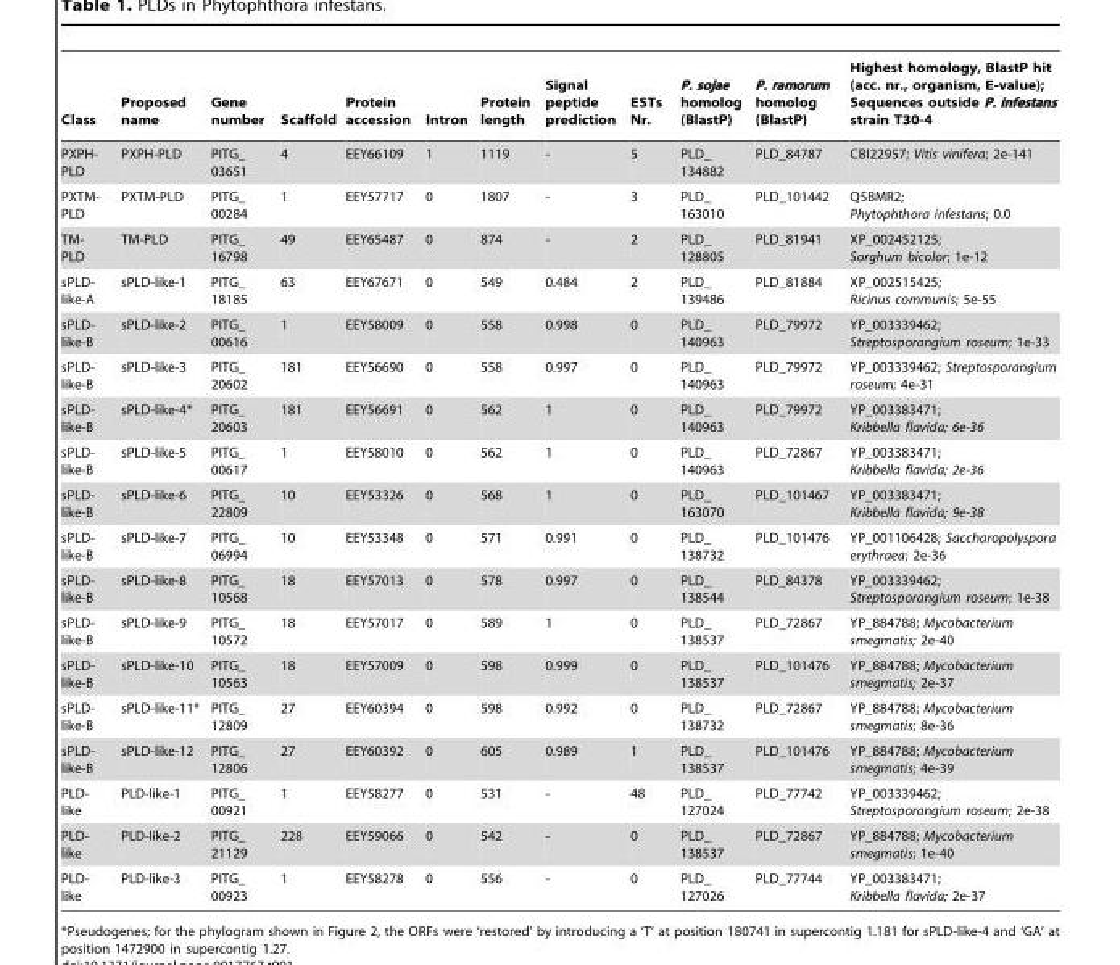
<table><thead><tr><td>Class</td><td>Proposed name</td><td>Gene number</td><td>Scaffold</td><td>Protein accession</td><td>Intron</td><td>Protein length</td><td>Signal peptide prediction</td><td>ESTs Nr.</td><td>P. sojae homolog (BlastP)</td><td>P. ramorum homolog (BlastP)</td><td>Highest homology, BlastP hit (acc. nr., organism, E-value); Sequences outside P. infestans strain T30-4</td></tr></thead><tbody><tr><td>PXPH- PLD</td><td>PXPH-PLD</td><td>PITG_ 03651</td><td>4</td><td>EEY66109</td><td>1</td><td>1119</td><td>-</td><td>5</td><td>PLD_ 134882</td><td>PLD_84787</td><td>CBI22957; Vitis vinifera; 2e-141</td></tr><tr><td>PXTM- PLD</td><td>PXTM-PLD</td><td>PITG_ 00284</td><td>1</td><td>EEY57717</td><td>0</td><td>1807</td><td>-</td><td>3</td><td>PLD_ 163010</td><td>PLD_101442</td><td>Q5BMR2; Phytophthora infestans; 0.0</td></tr><tr><td>TM- PLD</td><td>TM-PLD</td><td>PITG_ 16798</td><td>49</td><td>EEY65487</td><td>0</td><td>874</td><td>-</td><td>2</td><td>PLD_ 128805</td><td>PLD_81941</td><td>XP_002452125; Sorghum bicolor; 1e-12</td></tr><tr><td>sPLD- like-A</td><td>sPLD-like-1</td><td>PITG_ 18185</td><td>63</td><td>EEY67671</td><td>0</td><td>549</td><td>0.484</td><td>2</td><td>PLD_ 139486</td><td>PLD_81884</td><td>XP_002515425; Ricinus communis; 5e-55</td></tr><tr><td>sPLD- like-B</td><td>sPLD-like-2</td><td>PITG_ 00616</td><td>1</td><td>EEY58009</td><td>0</td><td>558</td><td>0.998</td><td>0</td><td>PLD_ 140963</td><td>PLD_79972</td><td>YP_003339462; Streptosporangium roseum; 1e-33</td></tr><tr><td>sPLD- like-B</td><td>sPLD-like-3</td><td>PITG_ 20602</td><td>181</td><td>EEY56690</td><td>0</td><td>558</td><td>0.997</td><td>0</td><td>PLD_ 140963</td><td>PLD_79972</td><td>YP_003339462; Streptosporangium roseum; 4e-31</td></tr><tr><td>sPLD- like-B</td><td>sPLD-like-4*</td><td>PITG_ 20603</td><td>181</td><td>EEY56691</td><td>0</td><td>562</td><td>1</td><td>0</td><td>PLD_ 140963</td><td>PLD_79972</td><td>YP_003383471; Kribbella flavida; 6e-36</td></tr><tr><td>sPLD- like-B</td><td>sPLD-like-5</td><td>PITG_ 00617</td><td>1</td><td>EEY58010</td><td>0</td><td>562</td><td>1</td><td>0</td><td>PLD_ 140963</td><td>PLD_72867</td><td>YP_003383471; Kribbella flavida; 2e-36</td></tr><tr><td>sPLD- like-B</td><td>sPLD-like-6</td><td>PITG_ 22809</td><td>10</td><td>EEY53326</td><td>0</td><td>568</td><td>1</td><td>0</td><td>PLD_ 163070</td><td>PLD_101467</td><td>YP_003383471; Kribbella flavida; 9e-38</td></tr><tr><td>sPLD- like-B</td><td>sPLD-like-7</td><td>PITG_ 06994</td><td>10</td><td>EEY53348</td><td>0</td><td>571</td><td>0.991</td><td>0</td><td>PLD_ 138732</td><td>PLD_101476</td><td>YP_001106428; Saccharopolyspora erythraea; 2e-36</td></tr><tr><td>sPLD- like-B</td><td>sPLD-like-8</td><td>PITG_ 10568</td><td>18</td><td>EEY57013</td><td>0</td><td>578</td><td>0.997</td><td>0</td><td>PLD_ 138544</td><td>PLD_84378</td><td>YP_003339462; Streptosporangium roseum; 1e-38</td></tr><tr><td>sPLD- like-B</td><td>sPLD-like-9</td><td>PITG_ 10572</td><td>18</td><td>EEY57017</td><td>0</td><td>589</td><td>1</td><td>0</td><td>PLD_ 138537</td><td>PLD_72867</td><td>YP_884788; Mycobacterium smegmatis; 2e-40</td></tr><tr><td>sPLD- like-B</td><td>sPLD-like-10</td><td>PITG_ 10563</td><td>18</td><td>EEY57009</td><td>0</td><td>598</td><td>0.999</td><td>0</td><td>PLD_ 138537</td><td>PLD_101476</td><td>YP_884788; Mycobacterium smegmatis; 2e-37</td></tr><tr><td>sPLD- like-B</td><td>sPLD-like-11*</td><td>PITG_ 12809</td><td>27</td><td>EEY60394</td><td>0</td><td>598</td><td>0.992</td><td>0</td><td>PLD_ 138732</td><td>PLD_72867</td><td>YP_884788; Mycobacterium smegmatis; 8e-36</td></tr><tr><td>sPLD- like-B</td><td>sPLD-like-12</td><td>PITG_ 12806</td><td>27</td><td>EEY60392</td><td>0</td><td>605</td><td>0.989</td><td>1</td><td>PLD_ 138537</td><td>PLD_101476</td><td>YP_884788; Mycobacterium smegmatis; 4e-39</td></tr><tr><td>PLD- like</td><td>PLD-like-1</td><td>PITG_ 00921</td><td>1</td><td>EEY58277</td><td>0</td><td>531</td><td>-</td><td>48</td><td>PLD_ 127024</td><td>PLD_77742</td><td>YP_003339462; Streptosporangium roseum; 2e-38</td></tr><tr><td>PLD- like</td><td>PLD-like-2</td><td>PITG_ 21129</td><td>228</td><td>EEY59066</td><td>0</td><td>542</td><td>-</td><td>0</td><td>PLD_ 138537</td><td>PLD_72867</td><td>YP_884788; Mycobacterium smegmatis; 1e-40</td></tr><tr><td>PLD- like</td><td>PLD-like-3</td><td>PITG_ 00923</td><td>1</td><td>EEY58278</td><td>0</td><td>556</td><td>-</td><td>0</td><td>PLD_ 127026</td><td>PLD_77744</td><td>YP_003383471; Kribbella flavida; 2e-37</td></tr></tbody></table>